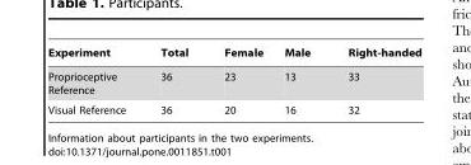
<table><thead><tr><td>Experiment</td><td>Total</td><td>Female</td><td>Male</td><td>Right-handed</td></tr></thead><tbody><tr><td>Proprioceptive Reference</td><td>36</td><td>23</td><td>13</td><td>33</td></tr><tr><td>Visual Reference</td><td>36</td><td>20</td><td>16</td><td>32</td></tr></tbody></table>